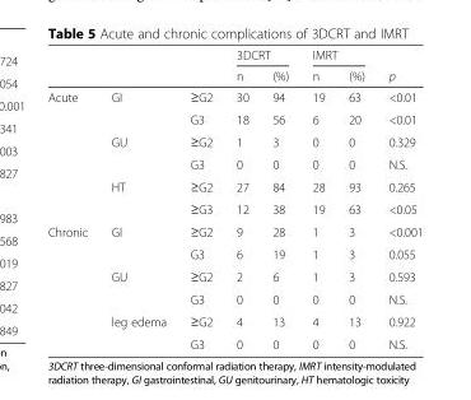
<table><thead><tr><td rowspan="2"></td><td rowspan="2"></td><td rowspan="2"></td><td colspan="2">3DCRT</td><td colspan="2">IMRT</td><td rowspan="2">p</td></tr><tr><td>n</td><td>(%)</td><td>n</td><td>(%)</td></tr></thead><tbody><tr><td rowspan="6">Acute</td><td>GI</td><td>≥G2</td><td>30</td><td>94</td><td>19</td><td>63</td><td>&lt;0.01</td></tr><tr><td></td><td>G3</td><td>18</td><td>56</td><td>6</td><td>20</td><td>&lt;0.01</td></tr><tr><td>GU</td><td>≥G2</td><td>1</td><td>3</td><td>0</td><td>0</td><td>0.329</td></tr><tr><td></td><td>G3</td><td>0</td><td>0</td><td>0</td><td>0</td><td>N.S.</td></tr><tr><td>HT</td><td>≥G2</td><td>27</td><td>84</td><td>28</td><td>93</td><td>0.265</td></tr><tr><td></td><td>≥G3</td><td>12</td><td>38</td><td>19</td><td>63</td><td>&lt;0.05</td></tr><tr><td rowspan="6">Chronic</td><td>GI</td><td>≥G2</td><td>9</td><td>28</td><td>1</td><td>3</td><td>&lt;0.001</td></tr><tr><td></td><td>G3</td><td>6</td><td>19</td><td>1</td><td>3</td><td>0.055</td></tr><tr><td>GU</td><td>≥G2</td><td>2</td><td>6</td><td>1</td><td>3</td><td>0.593</td></tr><tr><td></td><td>G3</td><td>0</td><td>0</td><td>0</td><td>0</td><td>N.S.</td></tr><tr><td>leg edema</td><td>≥G2</td><td>4</td><td>13</td><td>4</td><td>13</td><td>0.922</td></tr><tr><td></td><td>G3</td><td>0</td><td>0</td><td>0</td><td>0</td><td>N.S.</td></tr></tbody></table>